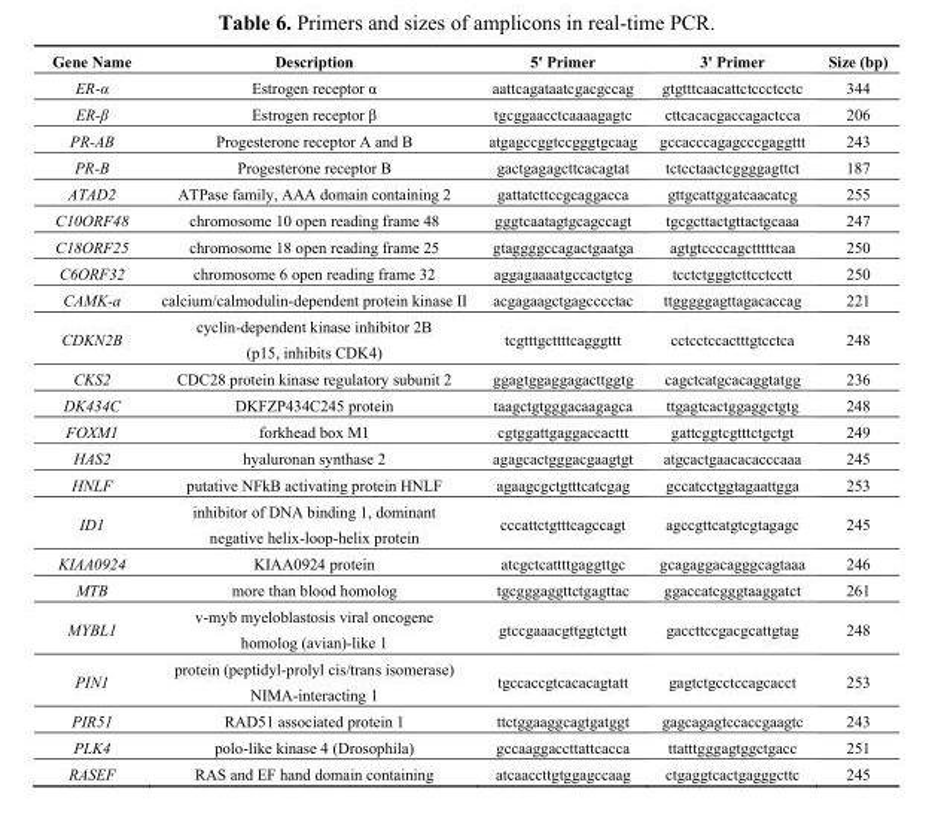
<table><thead><tr><td>Gene Name</td><td>Description</td><td>5&#x27; Primer</td><td>3&#x27; Primer</td><td>Size (bp)</td></tr></thead><tbody><tr><td>ER-α</td><td>Estrogen receptor α</td><td>aattcagataatcgacgccag</td><td>gtgtttcaacattctccctcctc</td><td>344</td></tr><tr><td>ER-β</td><td>Estrogen receptor β</td><td>tgcggaacctcaaaagagtc</td><td>cttcacacgaccagactcca</td><td>206</td></tr><tr><td>PR-AB</td><td>Progesterone receptor A and B</td><td>atgagccggtccgggtgcaag</td><td>gccacccagagcccgaggttt</td><td>243</td></tr><tr><td>PR-B</td><td>Progesterone receptor B</td><td>gactgagagcttcacagtat</td><td>tctcctaactcggggagttct</td><td>187</td></tr><tr><td>ATAD2</td><td>ATPase family, AAA domain containing 2</td><td>gattatcttccgcaggacca</td><td>gttgcattggatcaacatcg</td><td>255</td></tr><tr><td>C10ORF48</td><td>chromosome 10 open reading frame 48</td><td>gggtcaatagtgcagccagt</td><td>tgcgcttactgttactgcaaa</td><td>247</td></tr><tr><td>C18ORF25</td><td>chromosome 18 open reading frame 25</td><td>gtaggggccagactgaatga</td><td>agtgtccccagctttttcaa</td><td>250</td></tr><tr><td>C6ORF32</td><td>chromosome 6 open reading frame 32</td><td>aggagaaaatgccactgtcg</td><td>tcctctgggtcttcctcctt</td><td>250</td></tr><tr><td>CAMK-a</td><td>calcium/calmodulin-dependent protein kinase II</td><td>acgagaagctgagcccctac</td><td>ttgggggagttagacaccag</td><td>221</td></tr><tr><td>CDKN2B</td><td>cyclin-dependent kinase inhibitor 2B (p15, inhibits CDK4)</td><td>tcgtttgcttttcagggttt</td><td>cctcctccactttgtcctca</td><td>248</td></tr><tr><td>CKS2</td><td>CDC28 protein kinase regulatory subunit 2</td><td>ggagtggaggagacttggtg</td><td>cagctcatgcacaggtatgg</td><td>236</td></tr><tr><td>DK434C</td><td>DKFZP434C245 protein</td><td>taagctgtgggacaagagca</td><td>ttgagtcactggaggctgtg</td><td>248</td></tr><tr><td>FOXM1</td><td>forkhead box M1</td><td>cgtggattgaggaccacttt</td><td>gattcggtcgtttctgctgt</td><td>249</td></tr><tr><td>HAS2</td><td>hyaluronan synthase 2</td><td>agagcactgggacgaagtgt</td><td>atgcactgaacacacccaaa</td><td>245</td></tr><tr><td>HNLF</td><td>putative NFkB activating protein HNLF</td><td>agaagcgctgtttcatcgag</td><td>gccatcctggtagaattgga</td><td>253</td></tr><tr><td>ID1</td><td>inhibitor of DNA binding 1, dominant negative helix-loop-helix protein</td><td>cccattctgtttcagccagt</td><td>agccgttcatgtcgtagagc</td><td>245</td></tr><tr><td>KIAA0924</td><td>KIAA0924 protein</td><td>atcgctcattttgaggttgc</td><td>gcagaggacagggcagtaaa</td><td>246</td></tr><tr><td>MTB</td><td>more than blood homolog</td><td>tgcgggaggttctgagttac</td><td>ggaccatcgggtaaggatct</td><td>261</td></tr><tr><td>MYBL1</td><td>v-myb myeloblastosis viral oncogene homolog (avian)-like 1</td><td>gtccgaaacgttggtctgtt</td><td>gaccttccgacgcattgtag</td><td>248</td></tr><tr><td>PIN1</td><td>protein (peptidyl-prolyl cis/trans isomerase) NIMA-interacting 1</td><td>tgccaccgtcacacagtatt</td><td>gagtctgcctccagcacct</td><td>253</td></tr><tr><td>PIR51</td><td>RAD51 associated protein 1</td><td>ttctggaaggcagtgatggt</td><td>gagcagagtccaccgaagtc</td><td>243</td></tr><tr><td>PLK4</td><td>polo-like kinase 4 (Drosophila)</td><td>gccaaggaccttattcacca</td><td>ttatttgggagtggctgacc</td><td>251</td></tr><tr><td>RASEF</td><td>RAS and EF hand domain containing</td><td>atcaaccttgtggagccaag</td><td>ctgaggtcactgagggcttc</td><td>245</td></tr></tbody></table>